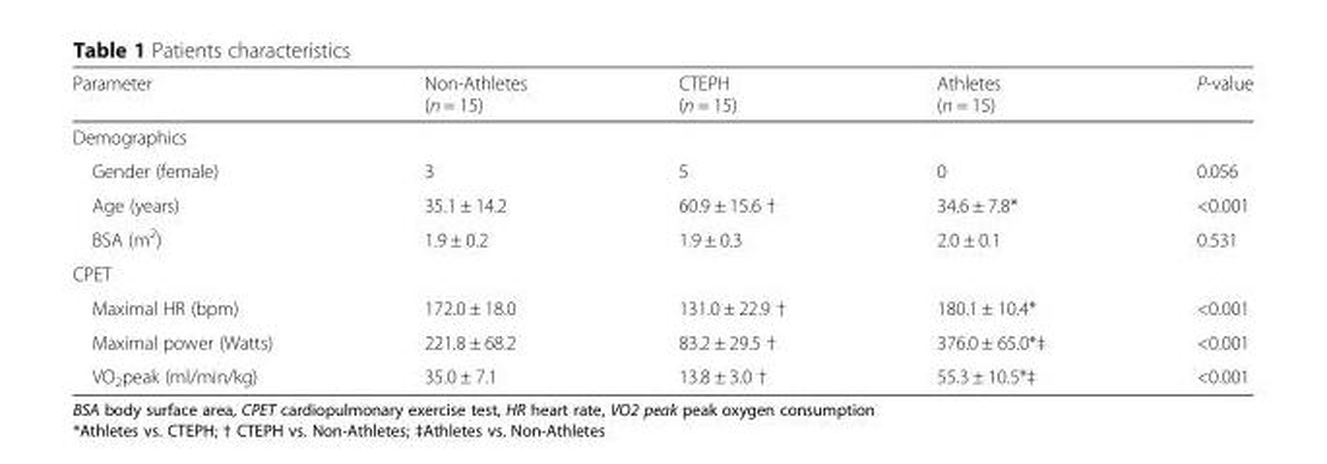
<table><thead><tr><td>Parameter</td><td>Non-Athletes (n = 15)</td><td>CTEPH (n = 15)</td><td>Athletes (n = 15)</td><td>P-value</td></tr></thead><tbody><tr><td colspan="5">Demographics</td></tr><tr><td>Gender (female)</td><td>3</td><td>5</td><td>0</td><td>0.056</td></tr><tr><td>Age (years)</td><td>35.1 ± 14.2</td><td>60.9 ± 15.6 †</td><td>34.6 ± 7.8*</td><td>&lt;0.001</td></tr><tr><td>BSA (m<sup>2</sup>)</td><td>1.9 ± 0.2</td><td>1.9 ± 0.3</td><td>2.0 ± 0.1</td><td>0.531</td></tr><tr><td colspan="5">CPET</td></tr><tr><td>Maximal HR (bpm)</td><td>172.0 ± 18.0</td><td>131.0 ± 22.9 †</td><td>180.1 ± 10.4*</td><td>&lt;0.001</td></tr><tr><td>Maximal power (Watts)</td><td>221.8 ± 68.2</td><td>83.2 ± 29.5 †</td><td>376.0 ± 65.0*‡</td><td>&lt;0.001</td></tr><tr><td>VO<sub>2</sub>peak (ml/min/kg)</td><td>35.0 ± 7.1</td><td>13.8 ± 3.0 †</td><td>55.3 ± 10.5*‡</td><td>&lt;0.001</td></tr></tbody></table>